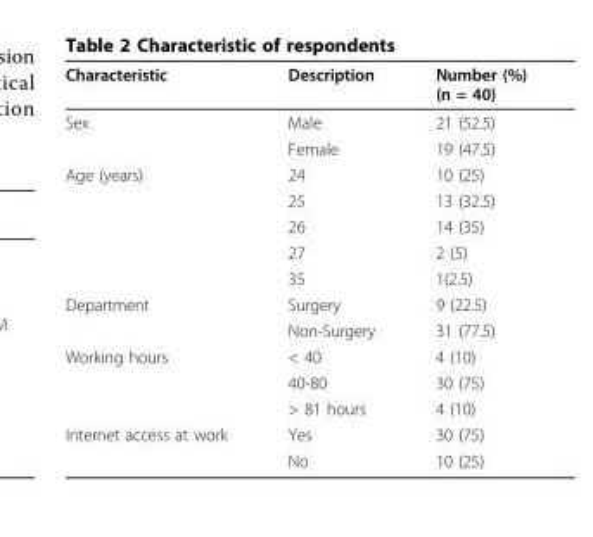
<table><thead><tr><td>Characteristic</td><td>Description</td><td>Number (%) (n = 40)</td></tr></thead><tbody><tr><td rowspan="2">Sex</td><td>Male</td><td>21 (52.5)</td></tr><tr><td>Female</td><td>19 (47.5)</td></tr><tr><td rowspan="5">Age (years)</td><td>24</td><td>10 (25)</td></tr><tr><td>25</td><td>13 (32.5)</td></tr><tr><td>26</td><td>14 (35)</td></tr><tr><td>27</td><td>2 (5)</td></tr><tr><td>35</td><td>1(2.5)</td></tr><tr><td rowspan="2">Department</td><td>Surgery</td><td>9 (22.5)</td></tr><tr><td>Non-Surgery</td><td>31 (77.5)</td></tr><tr><td rowspan="3">Working hours</td><td>&lt; 40</td><td>4 (10)</td></tr><tr><td>40-80</td><td>30 (75)</td></tr><tr><td>&gt; 81 hours</td><td>4 (10)</td></tr><tr><td rowspan="2">Internet access at work</td><td>Yes</td><td>30 (75)</td></tr><tr><td>No</td><td>10 (25)</td></tr></tbody></table>